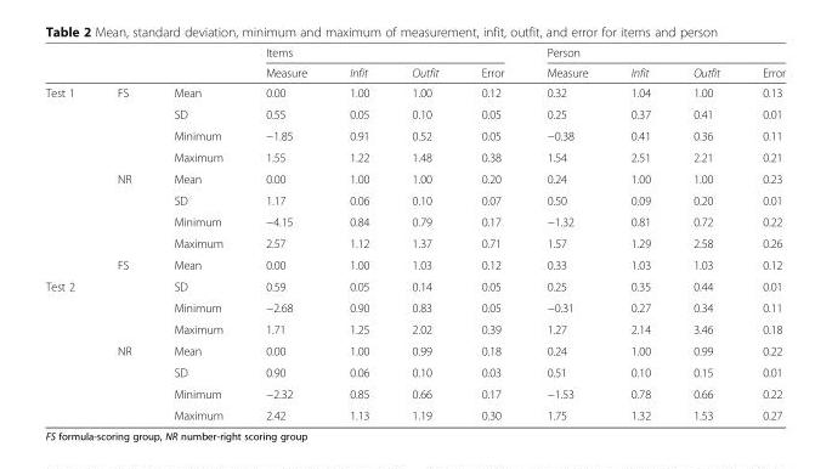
<table><thead><tr><td rowspan="2"></td><td rowspan="2"></td><td rowspan="2"></td><td colspan="4">Items</td><td colspan="4">Person</td></tr><tr><td>Measure</td><td>Infit</td><td>Outfit</td><td>Error</td><td>Measure</td><td>Infit</td><td>Outfit</td><td>Error</td></tr></thead><tbody><tr><td rowspan="9">Test 1</td><td rowspan="4">FS</td><td>Mean</td><td>0.00</td><td>1.00</td><td>1.00</td><td>0.12</td><td>0.32</td><td>1.04</td><td>1.00</td><td>0.13</td></tr><tr><td>SD</td><td>0.55</td><td>0.05</td><td>0.10</td><td>0.05</td><td>0.25</td><td>0.37</td><td>0.41</td><td>0.01</td></tr><tr><td>Minimum</td><td>−1.85</td><td>0.91</td><td>0.52</td><td>0.05</td><td>−0.38</td><td>0.41</td><td>0.36</td><td>0.11</td></tr><tr><td>Maximum</td><td>1.55</td><td>1.22</td><td>1.48</td><td>0.38</td><td>1.54</td><td>2.51</td><td>2.21</td><td>0.21</td></tr><tr><td rowspan="4">NR</td><td>Mean</td><td>0.00</td><td>1.00</td><td>1.00</td><td>0.20</td><td>0.24</td><td>1.00</td><td>1.00</td><td>0.23</td></tr><tr><td>SD</td><td>1.17</td><td>0.06</td><td>0.10</td><td>0.07</td><td>0.50</td><td>0.09</td><td>0.20</td><td>0.01</td></tr><tr><td>Minimum</td><td>−4.15</td><td>0.84</td><td>0.79</td><td>0.17</td><td>−1.32</td><td>0.81</td><td>0.72</td><td>0.22</td></tr><tr><td>Maximum</td><td>2.57</td><td>1.12</td><td>1.37</td><td>0.71</td><td>1.57</td><td>1.29</td><td>2.58</td><td>0.26</td></tr><tr><td rowspan="4">FS</td><td>Mean</td><td>0.00</td><td>1.00</td><td>1.03</td><td>0.12</td><td>0.33</td><td>1.03</td><td>1.03</td><td>0.12</td></tr><tr><td rowspan="7">Test 2</td><td>SD</td><td>0.59</td><td>0.05</td><td>0.14</td><td>0.05</td><td>0.25</td><td>0.35</td><td>0.44</td><td>0.01</td></tr><tr><td>Minimum</td><td>−2.68</td><td>0.90</td><td>0.83</td><td>0.05</td><td>−0.31</td><td>0.27</td><td>0.34</td><td>0.11</td></tr><tr><td>Maximum</td><td>1.71</td><td>1.25</td><td>2.02</td><td>0.39</td><td>1.27</td><td>2.14</td><td>3.46</td><td>0.18</td></tr><tr><td rowspan="4">NR</td><td>Mean</td><td>0.00</td><td>1.00</td><td>0.99</td><td>0.18</td><td>0.24</td><td>1.00</td><td>0.99</td><td>0.22</td></tr><tr><td>SD</td><td>0.90</td><td>0.06</td><td>0.10</td><td>0.03</td><td>0.51</td><td>0.10</td><td>0.15</td><td>0.01</td></tr><tr><td>Minimum</td><td>−2.32</td><td>0.85</td><td>0.66</td><td>0.17</td><td>−1.53</td><td>0.78</td><td>0.66</td><td>0.22</td></tr><tr><td>Maximum</td><td>2.42</td><td>1.13</td><td>1.19</td><td>0.30</td><td>1.75</td><td>1.32</td><td>1.53</td><td>0.27</td></tr></tbody></table>